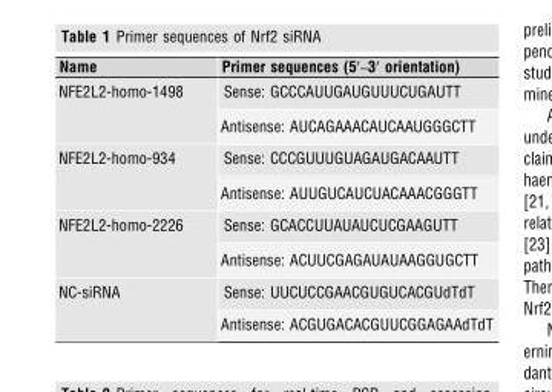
<table><thead><tr><td>Name</td><td>Primer sequences (5′–3′ orientation)</td></tr></thead><tbody><tr><td rowspan="2">NFE2L2-homo-1498</td><td>Sense: GCCCAUUGAUGUUUCUGAUTT</td></tr><tr><td>Antisense: AUCAGAAACAUCAAUGGGCTT</td></tr><tr><td rowspan="2">NFE2L2-homo-934</td><td>Sense: CCCGUUUGUAGAUGACAAUTT</td></tr><tr><td>Antisense: AUUGUCAUCUACAAACGGGTT</td></tr><tr><td rowspan="2">NFE2L2-homo-2226</td><td>Sense: GCACCUUAUAUCUCGAAGUTT</td></tr><tr><td>Antisense: ACUUCGAGAUAUAAGGUGCTT</td></tr><tr><td rowspan="2">NC-siRNA</td><td>Sense: UUCUCCGAACGUGUCACGUdTdT</td></tr><tr><td>Antisense: ACGUGACACGUUCGGAGAAdTdT</td></tr></tbody></table>